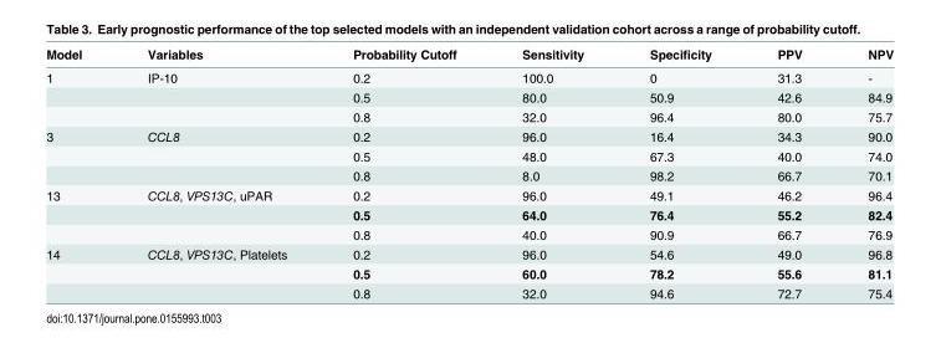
<table><thead><tr><td>Model</td><td>Variables</td><td>Probability Cutoff</td><td>Sensitivity</td><td>Specificity</td><td>PPV</td><td>NPV</td></tr></thead><tbody><tr><td rowspan="3">1</td><td>IP-10</td><td>0.2</td><td>100.0</td><td>0</td><td>31.3</td><td>-</td></tr><tr><td></td><td>0.5</td><td>80.0</td><td>50.9</td><td>42.6</td><td>84.9</td></tr><tr><td></td><td>0.8</td><td>32.0</td><td>96.4</td><td>80.0</td><td>75.7</td></tr><tr><td rowspan="3">3</td><td>CCL8</td><td>0.2</td><td>96.0</td><td>16.4</td><td>34.3</td><td>90.0</td></tr><tr><td></td><td>0.5</td><td>48.0</td><td>67.3</td><td>40.0</td><td>74.0</td></tr><tr><td></td><td>0.8</td><td>8.0</td><td>98.2</td><td>66.7</td><td>70.1</td></tr><tr><td rowspan="3">13</td><td>CCL8, VPS13C, uPAR</td><td>0.2</td><td>96.0</td><td>49.1</td><td>46.2</td><td>96.4</td></tr><tr><td></td><td>0.5</td><td>64.0</td><td>76.4</td><td>55.2</td><td>82.4</td></tr><tr><td></td><td>0.8</td><td>40.0</td><td>90.9</td><td>66.7</td><td>76.9</td></tr><tr><td rowspan="3">14</td><td>CCL8, VPS13C, Platelets</td><td>0.2</td><td>96.0</td><td>54.6</td><td>49.0</td><td>96.8</td></tr><tr><td></td><td>0.5</td><td>60.0</td><td>78.2</td><td>55.6</td><td>81.1</td></tr><tr><td></td><td>0.8</td><td>32.0</td><td>94.6</td><td>72.7</td><td>75.4</td></tr></tbody></table>